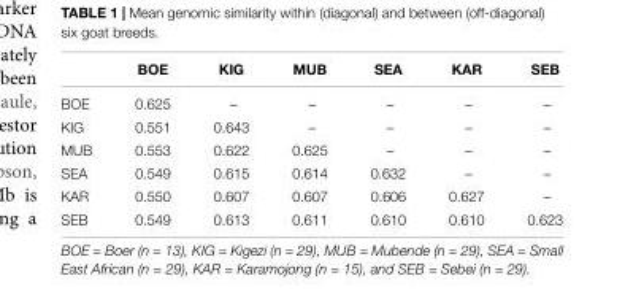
<table><thead><tr><td></td><td>BOE</td><td>KIG</td><td>MUB</td><td>SEA</td><td>KAR</td><td>SEB</td></tr></thead><tbody><tr><td>BOE</td><td>0.625</td><td>–</td><td>–</td><td>–</td><td>–</td><td>–</td></tr><tr><td>KIG</td><td>0.551</td><td>0.643</td><td>–</td><td>–</td><td>–</td><td>–</td></tr><tr><td>MUB</td><td>0.553</td><td>0.622</td><td>0.625</td><td>–</td><td>–</td><td>–</td></tr><tr><td>SEA</td><td>0.549</td><td>0.615</td><td>0.614</td><td>0.632</td><td>–</td><td>–</td></tr><tr><td>KAR</td><td>0.550</td><td>0.607</td><td>0.607</td><td>0.606</td><td>0.627</td><td>–</td></tr><tr><td>SEB</td><td>0.549</td><td>0.613</td><td>0.611</td><td>0.610</td><td>0.610</td><td>0.623</td></tr></tbody></table>